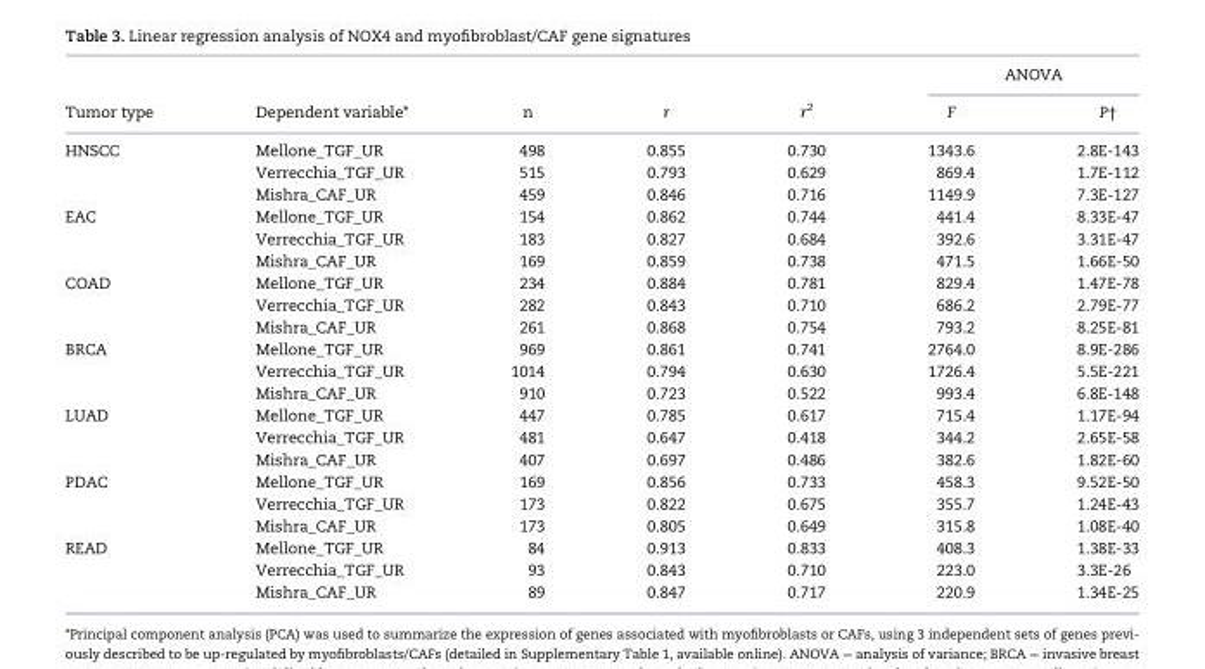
<table><thead><tr><td rowspan="2">Tumor type</td><td rowspan="2">Dependent variable*</td><td rowspan="2">n</td><td rowspan="2">r</td><td rowspan="2">r<sup>2</sup></td><td colspan="2">ANOVA</td></tr><tr><td>F</td><td>P†</td></tr></thead><tbody><tr><td rowspan="3">HNSCC</td><td>Mellone_TGF_UR</td><td>498</td><td>0.855</td><td>0.730</td><td>1343.6</td><td>2.8E-143</td></tr><tr><td>Verrecchia_TGF_UR</td><td>515</td><td>0.793</td><td>0.629</td><td>869.4</td><td>1.7E-112</td></tr><tr><td>Mishra_CAF_UR</td><td>459</td><td>0.846</td><td>0.716</td><td>1149.9</td><td>7.3E-127</td></tr><tr><td rowspan="3">EAC</td><td>Mellone_TGF_UR</td><td>154</td><td>0.862</td><td>0.744</td><td>441.4</td><td>8.33E-47</td></tr><tr><td>Verrecchia_TGF_UR</td><td>183</td><td>0.827</td><td>0.684</td><td>392.6</td><td>3.31E-47</td></tr><tr><td>Mishra_CAF_UR</td><td>169</td><td>0.859</td><td>0.738</td><td>471.5</td><td>1.66E-50</td></tr><tr><td rowspan="3">COAD</td><td>Mellone_TGF_UR</td><td>234</td><td>0.884</td><td>0.781</td><td>829.4</td><td>1.47E-78</td></tr><tr><td>Verrecchia_TGF_UR</td><td>282</td><td>0.843</td><td>0.710</td><td>686.2</td><td>2.79E-77</td></tr><tr><td>Mishra_CAF_UR</td><td>261</td><td>0.868</td><td>0.754</td><td>793.2</td><td>8.25E-81</td></tr><tr><td rowspan="3">BRCA</td><td>Mellone_TGF_UR</td><td>969</td><td>0.861</td><td>0.741</td><td>2764.0</td><td>8.9E-286</td></tr><tr><td>Verrecchia_TGF_UR</td><td>1014</td><td>0.794</td><td>0.630</td><td>1726.4</td><td>5.5E-221</td></tr><tr><td>Mishra_CAF_UR</td><td>910</td><td>0.723</td><td>0.522</td><td>993.4</td><td>6.8E-148</td></tr><tr><td rowspan="3">LUAD</td><td>Mellone_TGF_UR</td><td>447</td><td>0.785</td><td>0.617</td><td>715.4</td><td>1.17E-94</td></tr><tr><td>Verrecchia_TGF_UR</td><td>481</td><td>0.647</td><td>0.418</td><td>344.2</td><td>2.65E-58</td></tr><tr><td>Mishra_CAF_UR</td><td>407</td><td>0.697</td><td>0.486</td><td>382.6</td><td>1.82E-60</td></tr><tr><td rowspan="3">PDAC</td><td>Mellone_TGF_UR</td><td>169</td><td>0.856</td><td>0.733</td><td>458.3</td><td>9.52E-50</td></tr><tr><td>Verrecchia_TGF_UR</td><td>173</td><td>0.822</td><td>0.675</td><td>355.7</td><td>1.24E-43</td></tr><tr><td>Mishra_CAF_UR</td><td>173</td><td>0.805</td><td>0.649</td><td>315.8</td><td>1.08E-40</td></tr><tr><td rowspan="3">READ</td><td>Mellone_TGF_UR</td><td>84</td><td>0.913</td><td>0.833</td><td>408.3</td><td>1.38E-33</td></tr><tr><td>Verrecchia_TGF_UR</td><td>93</td><td>0.843</td><td>0.710</td><td>223.0</td><td>3.3E-26</td></tr><tr><td>Mishra_CAF_UR</td><td>89</td><td>0.847</td><td>0.717</td><td>220.9</td><td>1.34E-25</td></tr></tbody></table>